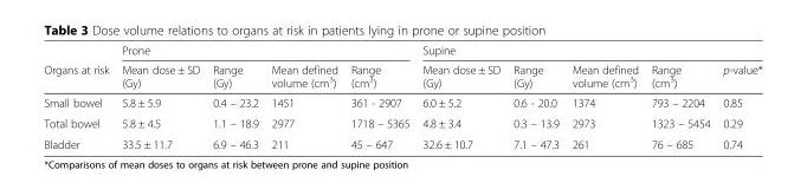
<table><thead><tr><td rowspan="2">Organs at risk</td><td colspan="4">Prone</td><td colspan="5">Supine</td></tr><tr><td>Mean dose ± SD (Gy)</td><td>Range (Gy)</td><td>Mean defined volume (cm<sup>3</sup>)</td><td>Range (cm<sup>3</sup>)</td><td>Mean dose ± SD (Gy)</td><td>Range (Gy)</td><td>Mean defined volume (cm<sup>3</sup>)</td><td>Range (cm<sup>3</sup>)</td><td>p-value*</td></tr></thead><tbody><tr><td>Small bowel</td><td>5.8 ± 5.9</td><td>0.4 – 23.2</td><td>1451</td><td>361 - 2907</td><td>6.0 ± 5.2</td><td>0.6 - 20.0</td><td>1374</td><td>793 – 2204</td><td>0.85</td></tr><tr><td>Total bowel</td><td>5.8 ± 4.5</td><td>1.1 – 18.9</td><td>2977</td><td>1718 – 5365</td><td>4.8 ± 3.4</td><td>0.3 – 13.9</td><td>2973</td><td>1323 – 5454</td><td>0.29</td></tr><tr><td>Bladder</td><td>33.5 ± 11.7</td><td>6.9 – 46.3</td><td>211</td><td>45 – 647</td><td>32.6 ± 10.7</td><td>7.1 – 47.3</td><td>261</td><td>76 – 685</td><td>0.74</td></tr></tbody></table>